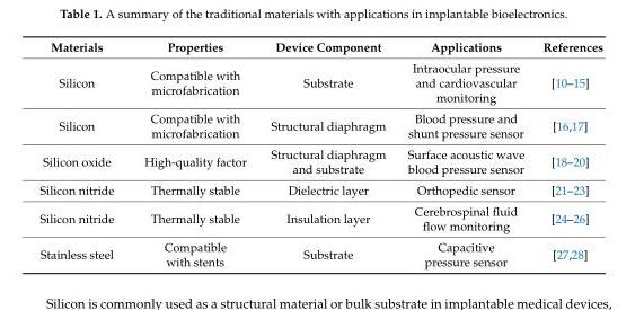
<table><thead><tr><td>Materials</td><td>Properties</td><td>Device Component</td><td>Applications</td><td>References</td></tr></thead><tbody><tr><td>Silicon</td><td>Compatible with microfabrication</td><td>Substrate</td><td>Intraocular pressure and cardiovascular monitoring</td><td>[10–15]</td></tr><tr><td>Silicon</td><td>Compatible with microfabrication</td><td>Structural diaphragm</td><td>Blood pressure and shunt pressure sensor</td><td>[16,17]</td></tr><tr><td>Silicon oxide</td><td>High-quality factor</td><td>Structural diaphragm and substrate</td><td>Surface acoustic wave blood pressure sensor</td><td>[18–20]</td></tr><tr><td>Silicon nitride</td><td>Thermally stable</td><td>Dielectric layer</td><td>Orthopedic sensor</td><td>[21–23]</td></tr><tr><td>Silicon nitride</td><td>Thermally stable</td><td>Insulation layer</td><td>Cerebrospinal fluid flow monitoring</td><td>[24–26]</td></tr><tr><td>Stainless steel</td><td>Compatible with stents</td><td>Substrate</td><td>Capacitive pressure sensor</td><td>[27,28]</td></tr></tbody></table>